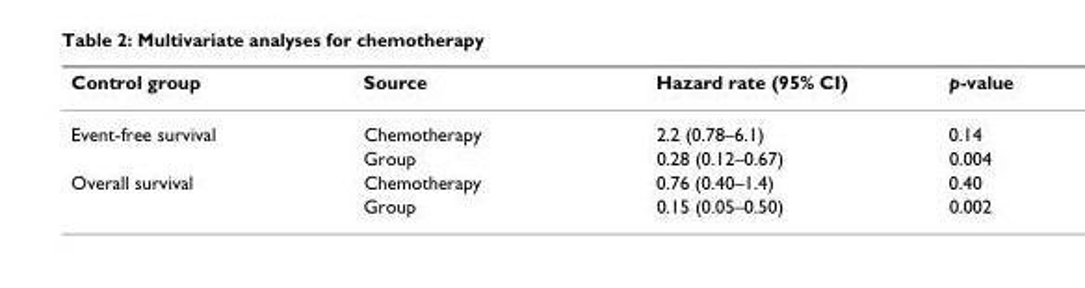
<table><thead><tr><td>Control group</td><td>Source</td><td>Hazard rate (95% CI)</td><td>p-value</td></tr></thead><tbody><tr><td rowspan="2">Event-free survival</td><td>Chemotherapy</td><td>2.2 (0.78–6.1)</td><td>0.14</td></tr><tr><td>Group</td><td>0.28 (0.12–0.67)</td><td>0.004</td></tr><tr><td rowspan="2">Overall survival</td><td>Chemotherapy</td><td>0.76 (0.40–1.4)</td><td>0.40</td></tr><tr><td>Group</td><td>0.15 (0.05–0.50)</td><td>0.002</td></tr></tbody></table>